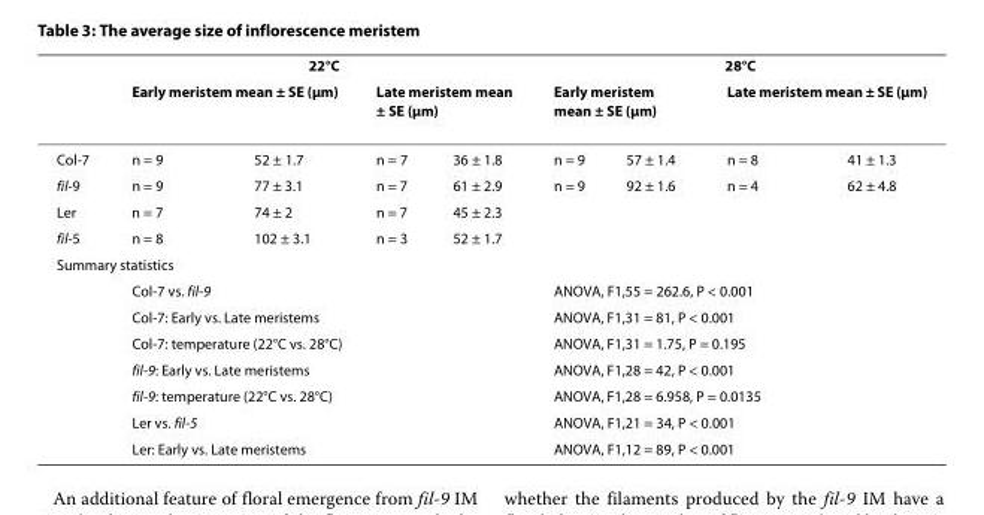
<table><thead><tr><td rowspan="3">Col-7</td><td colspan="4">22°C</td><td colspan="4">28°C</td></tr><tr><td colspan="2">Early meristem mean ± SE (μm)</td><td colspan="2">Late meristem mean ± SE (μm)</td><td colspan="2">Early meristem mean ± SE (μm)</td><td colspan="2">Late meristem mean ± SE (μm)</td></tr><tr><td>n = 9</td><td>52 ± 1.7</td><td>n = 7</td><td>36 ± 1.8</td><td>n = 9</td><td>57 ± 1.4</td><td>n = 8</td><td>41 ± 1.3</td></tr></thead><tbody><tr><td>fil-9</td><td>n = 9</td><td>77 ± 3.1</td><td>n = 7</td><td>61 ± 2.9</td><td>n = 9</td><td>92 ± 1.6</td><td>n = 4</td><td>62 ± 4.8</td></tr><tr><td>Ler</td><td>n = 7</td><td>74 ± 2</td><td>n = 7</td><td>45 ± 2.3</td><td></td><td></td><td></td><td></td></tr><tr><td>fil-5</td><td>n = 8</td><td>102 ± 3.1</td><td>n = 3</td><td>52 ± 1.7</td><td></td><td></td><td></td><td></td></tr><tr><td colspan="9">Summary statistics</td></tr><tr><td></td><td colspan="4">Col-7 vs. fil-9</td><td colspan="4">ANOVA, F1,55 = 262.6, P &lt; 0.001</td></tr><tr><td></td><td colspan="4">Col-7: Early vs. Late meristems</td><td colspan="4">ANOVA, F1,31 = 81, P &lt; 0.001</td></tr><tr><td></td><td colspan="4">Col-7: temperature (22°C vs. 28°C)</td><td colspan="4">ANOVA, F1,31 = 1.75, P = 0.195</td></tr><tr><td></td><td colspan="4">fil-9: Early vs. Late meristems</td><td colspan="4">ANOVA, F1,28 = 42, P &lt; 0.001</td></tr><tr><td></td><td colspan="4">fil-9: temperature (22°C vs. 28°C)</td><td colspan="4">ANOVA, F1,28 = 6.958, P = 0.0135</td></tr><tr><td></td><td colspan="4">Ler vs. fil-5</td><td colspan="4">ANOVA, F1,21 = 34, P &lt; 0.001</td></tr><tr><td></td><td colspan="4">Ler: Early vs. Late meristems</td><td colspan="4">ANOVA, F1,12 = 89, P &lt; 0.001</td></tr></tbody></table>